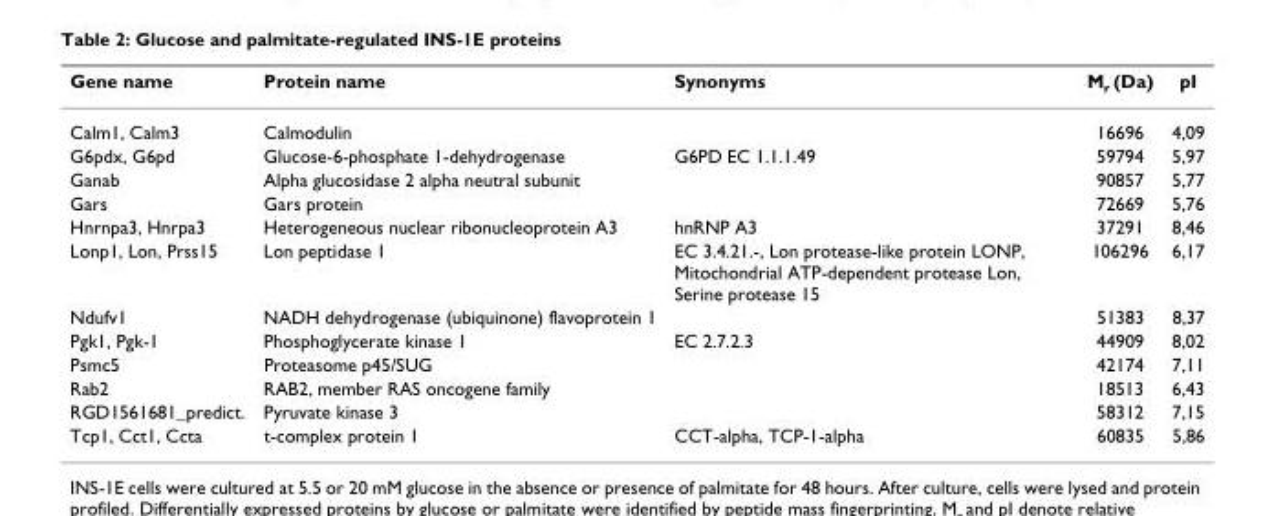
<table><thead><tr><td>Gene name</td><td>Protein name</td><td>Synonyms</td><td>M<sub>r</sub> (Da)</td><td>pI</td></tr></thead><tbody><tr><td>Calm1, Calm3</td><td>Calmodulin</td><td></td><td>16696</td><td>4,09</td></tr><tr><td>G6pdx, G6pd</td><td>Glucose-6-phosphate 1-dehydrogenase</td><td>G6PD EC 1.1.1.49</td><td>59794</td><td>5,97</td></tr><tr><td>Ganab</td><td>Alpha glucosidase 2 alpha neutral subunit</td><td></td><td>90857</td><td>5,77</td></tr><tr><td>Gars</td><td>Gars protein</td><td></td><td>72669</td><td>5,76</td></tr><tr><td>Hnrnpa3, Hnrpa3</td><td>Heterogeneous nuclear ribonucleoprotein A3</td><td>hnRNP A3</td><td>37291</td><td>8,46</td></tr><tr><td>Lonp1, Lon, Prss15</td><td>Lon peptidase 1</td><td>EC 3.4.21.-, Lon protease-like protein LONP, Mitochondrial ATP-dependent protease Lon, Serine protease 15</td><td>106296</td><td>6,17</td></tr><tr><td>Ndufv1</td><td>NADH dehydrogenase (ubiquinone) flavoprotein 1</td><td></td><td>51383</td><td>8,37</td></tr><tr><td>Pgk1, Pgk-1</td><td>Phosphoglycerate kinase 1</td><td>EC 2.7.2.3</td><td>44909</td><td>8,02</td></tr><tr><td>Psmc5</td><td>Proteasome p45/SUG</td><td></td><td>42174</td><td>7,11</td></tr><tr><td>Rab2</td><td>RAB2, member RAS oncogene family</td><td></td><td>18513</td><td>6,43</td></tr><tr><td>RGD1561681_predict.</td><td>Pyruvate kinase 3</td><td></td><td>58312</td><td>7,15</td></tr><tr><td>Tcp1, Cct1, Ccta</td><td>t-complex protein 1</td><td>CCT-alpha, TCP-1-alpha</td><td>60835</td><td>5,86</td></tr></tbody></table>